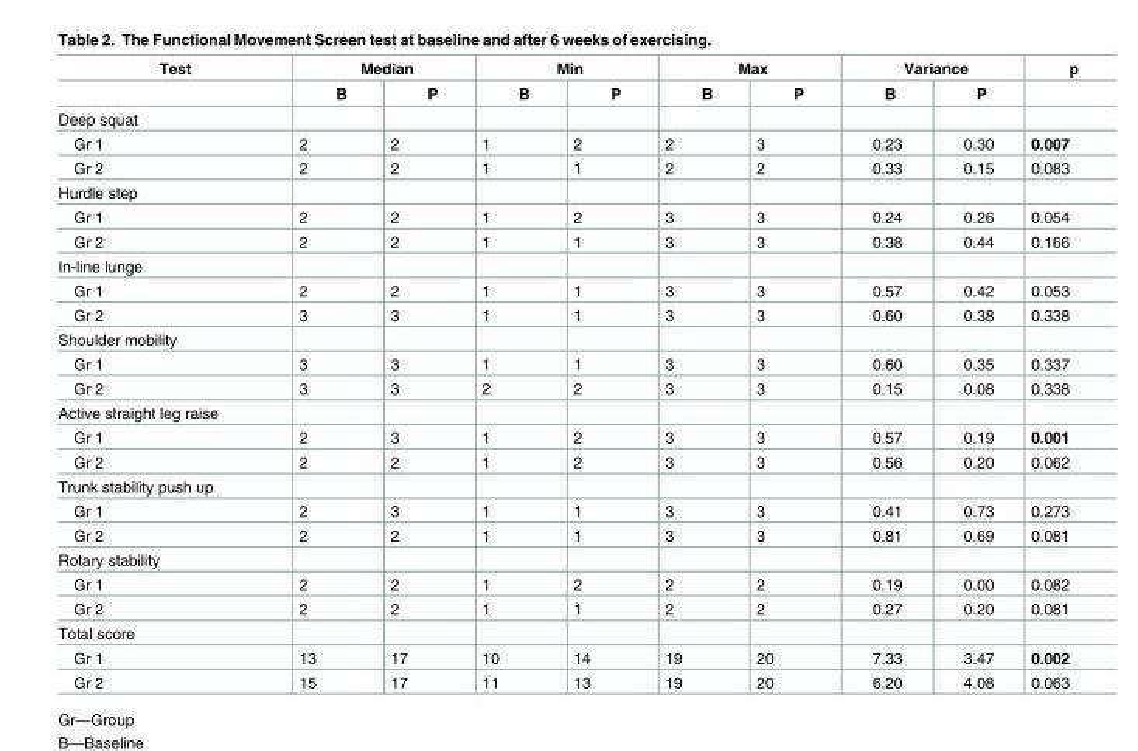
<table><thead><tr><td rowspan="2">Test</td><td colspan="2">Median</td><td colspan="2">Min</td><td colspan="2">Max</td><td colspan="2">Variance</td><td rowspan="2">p</td></tr><tr><td>B</td><td>P</td><td>B</td><td>P</td><td>B</td><td>P</td><td>B</td><td>P</td></tr></thead><tbody><tr><td colspan="10">Deep squat</td></tr><tr><td>Gr 1</td><td>2</td><td>2</td><td>1</td><td>2</td><td>2</td><td>3</td><td>0.23</td><td>0.30</td><td>0.007</td></tr><tr><td>Gr 2</td><td>2</td><td>2</td><td>1</td><td>1</td><td>2</td><td>2</td><td>0.33</td><td>0.15</td><td>0.083</td></tr><tr><td colspan="10">Hurdle step</td></tr><tr><td>Gr 1</td><td>2</td><td>2</td><td>1</td><td>2</td><td>3</td><td>3</td><td>0.24</td><td>0.26</td><td>0.054</td></tr><tr><td>Gr 2</td><td>2</td><td>2</td><td>1</td><td>1</td><td>3</td><td>3</td><td>0.38</td><td>0.44</td><td>0.166</td></tr><tr><td colspan="10">In-line lunge</td></tr><tr><td>Gr 1</td><td>2</td><td>2</td><td>1</td><td>1</td><td>3</td><td>3</td><td>0.57</td><td>0.42</td><td>0.053</td></tr><tr><td>Gr 2</td><td>3</td><td>3</td><td>1</td><td>1</td><td>3</td><td>3</td><td>0.60</td><td>0.38</td><td>0.338</td></tr><tr><td colspan="10">Shoulder mobility</td></tr><tr><td>Gr 1</td><td>3</td><td>3</td><td>1</td><td>1</td><td>3</td><td>3</td><td>0.60</td><td>0.35</td><td>0.337</td></tr><tr><td>Gr 2</td><td>3</td><td>3</td><td>2</td><td>2</td><td>3</td><td>3</td><td>0.15</td><td>0.08</td><td>0,338</td></tr><tr><td colspan="10">Active straight leg raise</td></tr><tr><td>Gr 1</td><td>2</td><td>3</td><td>1</td><td>2</td><td>3</td><td>3</td><td>0.57</td><td>0.19</td><td>0.001</td></tr><tr><td>Gr 2</td><td>2</td><td>2</td><td>1</td><td>2</td><td>3</td><td>3</td><td>0.56</td><td>0.20</td><td>0.062</td></tr><tr><td colspan="10">Trunk stability push up</td></tr><tr><td>Gr 1</td><td>2</td><td>3</td><td>1</td><td>1</td><td>3</td><td>3</td><td>0.41</td><td>0.73</td><td>0.273</td></tr><tr><td>Gr 2</td><td>2</td><td>2</td><td>1</td><td>1</td><td>3</td><td>3</td><td>0.81</td><td>0.69</td><td>0.081</td></tr><tr><td colspan="10">Rotary stability</td></tr><tr><td>Gr 1</td><td>2</td><td>2</td><td>1</td><td>2</td><td>2</td><td>2</td><td>0.19</td><td>0.00</td><td>0.082</td></tr><tr><td>Gr 2</td><td>2</td><td>2</td><td>1</td><td>1</td><td>2</td><td>2</td><td>0.27</td><td>0.20</td><td>0.081</td></tr><tr><td colspan="10">Total score</td></tr><tr><td>Gr 1</td><td>13</td><td>17</td><td>10</td><td>14</td><td>19</td><td>20</td><td>7.33</td><td>3.47</td><td>0.002</td></tr><tr><td>Gr 2</td><td>15</td><td>17</td><td>11</td><td>13</td><td>19</td><td>20</td><td>6.20</td><td>4.08</td><td>0.063</td></tr></tbody></table>